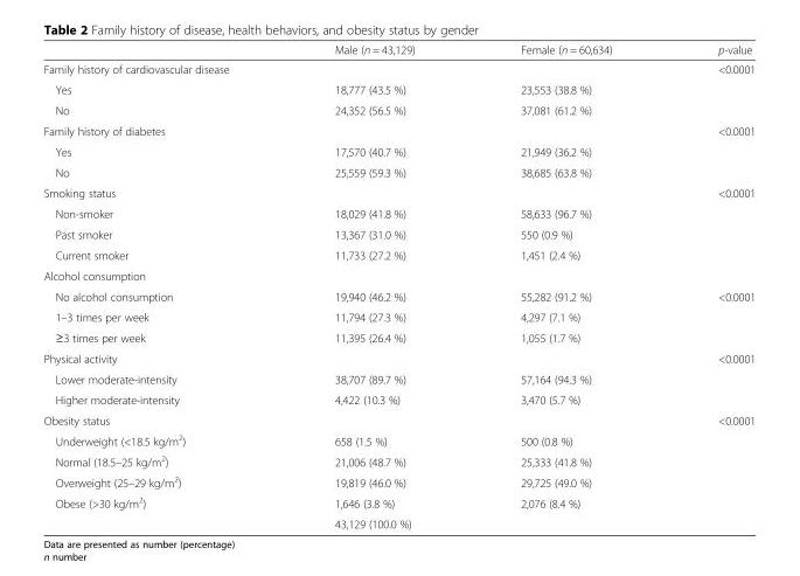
<table><thead><tr><td></td><td>Male (n = 43,129)</td><td>Female (n = 60,634)</td><td>p-value</td></tr></thead><tbody><tr><td>Family history of cardiovascular disease</td><td></td><td></td><td>&lt;0.0001</td></tr><tr><td>Yes</td><td>18,777 (43.5 %)</td><td>23,553 (38.8 %)</td><td></td></tr><tr><td>No</td><td>24,352 (56.5 %)</td><td>37,081 (61.2 %)</td><td></td></tr><tr><td>Family history of diabetes</td><td></td><td></td><td>&lt;0.0001</td></tr><tr><td>Yes</td><td>17,570 (40.7 %)</td><td>21,949 (36.2 %)</td><td></td></tr><tr><td>No</td><td>25,559 (59.3 %)</td><td>38,685 (63.8 %)</td><td></td></tr><tr><td>Smoking status</td><td></td><td></td><td>&lt;0.0001</td></tr><tr><td>Non-smoker</td><td>18,029 (41.8 %)</td><td>58,633 (96.7 %)</td><td></td></tr><tr><td>Past smoker</td><td>13,367 (31.0 %)</td><td>550 (0.9 %)</td><td></td></tr><tr><td>Current smoker</td><td>11,733 (27.2 %)</td><td>1,451 (2.4 %)</td><td></td></tr><tr><td colspan="4">Alcohol consumption</td></tr><tr><td>No alcohol consumption</td><td>19,940 (46.2 %)</td><td>55,282 (91.2 %)</td><td>&lt;0.0001</td></tr><tr><td>1–3 times per week</td><td>11,794 (27.3 %)</td><td>4,297 (7.1 %)</td><td></td></tr><tr><td>≥3 times per week</td><td>11,395 (26.4 %)</td><td>1,055 (1.7 %)</td><td></td></tr><tr><td>Physical activity</td><td></td><td></td><td>&lt;0.0001</td></tr><tr><td>Lower moderate-intensity</td><td>38,707 (89.7 %)</td><td>57,164 (94.3 %)</td><td></td></tr><tr><td>Higher moderate-intensity</td><td>4,422 (10.3 %)</td><td>3,470 (5.7 %)</td><td></td></tr><tr><td>Obesity status</td><td></td><td></td><td>&lt;0.0001</td></tr><tr><td>Underweight (&lt;18.5 kg/m<sup>2</sup>)</td><td>658 (1.5 %)</td><td>500 (0.8 %)</td><td></td></tr><tr><td>Normal (18.5–25 kg/m<sup>2</sup>)</td><td>21,006 (48.7 %)</td><td>25,333 (41.8 %)</td><td></td></tr><tr><td>Overweight (25–29 kg/m<sup>2</sup>)</td><td>19,819 (46.0 %)</td><td>29,725 (49.0 %)</td><td></td></tr><tr><td rowspan="2">Obese (&gt;30 kg/m<sup>2</sup>)</td><td>1,646 (3.8 %)</td><td>2,076 (8.4 %)</td><td></td></tr><tr><td>43,129 (100.0 %)</td><td></td><td></td></tr></tbody></table>